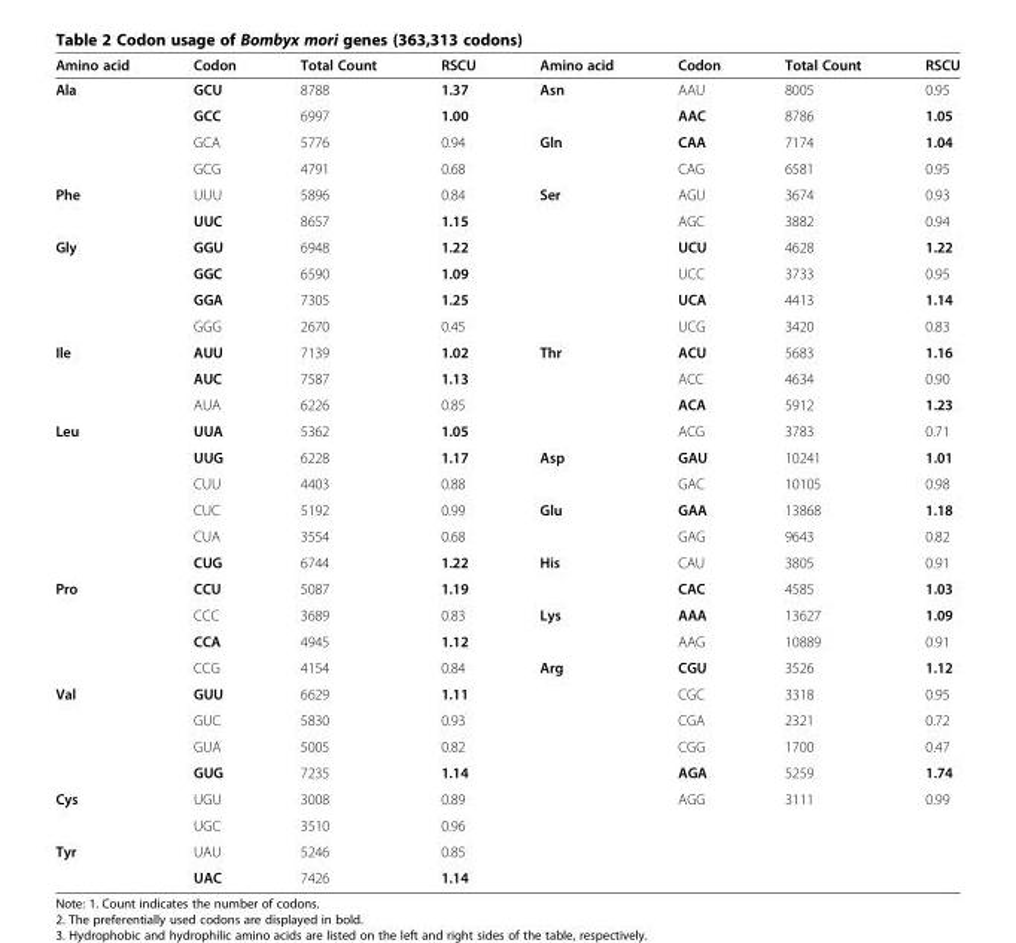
<table><thead><tr><td>Amino acid</td><td>Codon</td><td>Total Count</td><td>RSCU</td><td>Amino acid</td><td>Codon</td><td>Total Count</td><td>RSCU</td></tr></thead><tbody><tr><td rowspan="4">Ala</td><td>GCU</td><td>8788</td><td>1.37</td><td rowspan="2">Asn</td><td>AAU</td><td>8005</td><td>0.95</td></tr><tr><td>GCC</td><td>6997</td><td>1.00</td><td>AAC</td><td>8786</td><td>1.05</td></tr><tr><td>GCA</td><td>5776</td><td>0.94</td><td rowspan="2">Gln</td><td>CAA</td><td>7174</td><td>1.04</td></tr><tr><td>GCG</td><td>4791</td><td>0.68</td><td>CAG</td><td>6581</td><td>0.95</td></tr><tr><td rowspan="2">Phe</td><td>UUU</td><td>5896</td><td>0.84</td><td rowspan="6">Ser</td><td>AGU</td><td>3674</td><td>0.93</td></tr><tr><td>UUC</td><td>8657</td><td>1.15</td><td>AGC</td><td>3882</td><td>0.94</td></tr><tr><td rowspan="4">Gly</td><td>GGU</td><td>6948</td><td>1.22</td><td>UCU</td><td>4628</td><td>1.22</td></tr><tr><td>GGC</td><td>6590</td><td>1.09</td><td>UCC</td><td>3733</td><td>0.95</td></tr><tr><td>GGA</td><td>7305</td><td>1.25</td><td>UCA</td><td>4413</td><td>1.14</td></tr><tr><td>GGG</td><td>2670</td><td>0.45</td><td>UCG</td><td>3420</td><td>0.83</td></tr><tr><td rowspan="3">Ile</td><td>AUU</td><td>7139</td><td>1.02</td><td rowspan="4">Thr</td><td>ACU</td><td>5683</td><td>1.16</td></tr><tr><td>AUC</td><td>7587</td><td>1.13</td><td>ACC</td><td>4634</td><td>0.90</td></tr><tr><td>AUA</td><td>6226</td><td>0.85</td><td>ACA</td><td>5912</td><td>1.23</td></tr><tr><td rowspan="6">Leu</td><td>UUA</td><td>5362</td><td>1.05</td><td>ACG</td><td>3783</td><td>0.71</td></tr><tr><td>UUG</td><td>6228</td><td>1.17</td><td rowspan="2">Asp</td><td>GAU</td><td>10241</td><td>1.01</td></tr><tr><td>CUU</td><td>4403</td><td>0.88</td><td>GAC</td><td>10105</td><td>0.98</td></tr><tr><td>CUC</td><td>5192</td><td>0.99</td><td rowspan="2">Glu</td><td>GAA</td><td>13868</td><td>1.18</td></tr><tr><td>CUA</td><td>3554</td><td>0.68</td><td>GAG</td><td>9643</td><td>0.82</td></tr><tr><td>CUG</td><td>6744</td><td>1.22</td><td rowspan="2">His</td><td>CAU</td><td>3805</td><td>0.91</td></tr><tr><td rowspan="4">Pro</td><td>CCU</td><td>5087</td><td>1.19</td><td>CAC</td><td>4585</td><td>1.03</td></tr><tr><td>CCC</td><td>3689</td><td>0.83</td><td rowspan="2">Lys</td><td>AAA</td><td>13627</td><td>1.09</td></tr><tr><td>CCA</td><td>4945</td><td>1.12</td><td>AAG</td><td>10889</td><td>0.91</td></tr><tr><td>CCG</td><td>4154</td><td>0.84</td><td rowspan="6">Arg</td><td>CGU</td><td>3526</td><td>1.12</td></tr><tr><td rowspan="4">Val</td><td>GUU</td><td>6629</td><td>1.11</td><td>CGC</td><td>3318</td><td>0.95</td></tr><tr><td>GUC</td><td>5830</td><td>0.93</td><td>CGA</td><td>2321</td><td>0.72</td></tr><tr><td>GUA</td><td>5005</td><td>0.82</td><td>CGG</td><td>1700</td><td>0.47</td></tr><tr><td>GUG</td><td>7235</td><td>1.14</td><td>AGA</td><td>5259</td><td>1.74</td></tr><tr><td rowspan="2">Cys</td><td>UGU</td><td>3008</td><td>0.89</td><td>AGG</td><td>3111</td><td>0.99</td></tr><tr><td>UGC</td><td>3510</td><td>0.96</td><td></td><td></td><td></td><td></td></tr><tr><td rowspan="2">Tyr</td><td>UAU</td><td>5246</td><td>0.85</td><td></td><td></td><td></td><td></td></tr><tr><td>UAC</td><td>7426</td><td>1.14</td><td></td><td></td><td></td><td></td></tr></tbody></table>